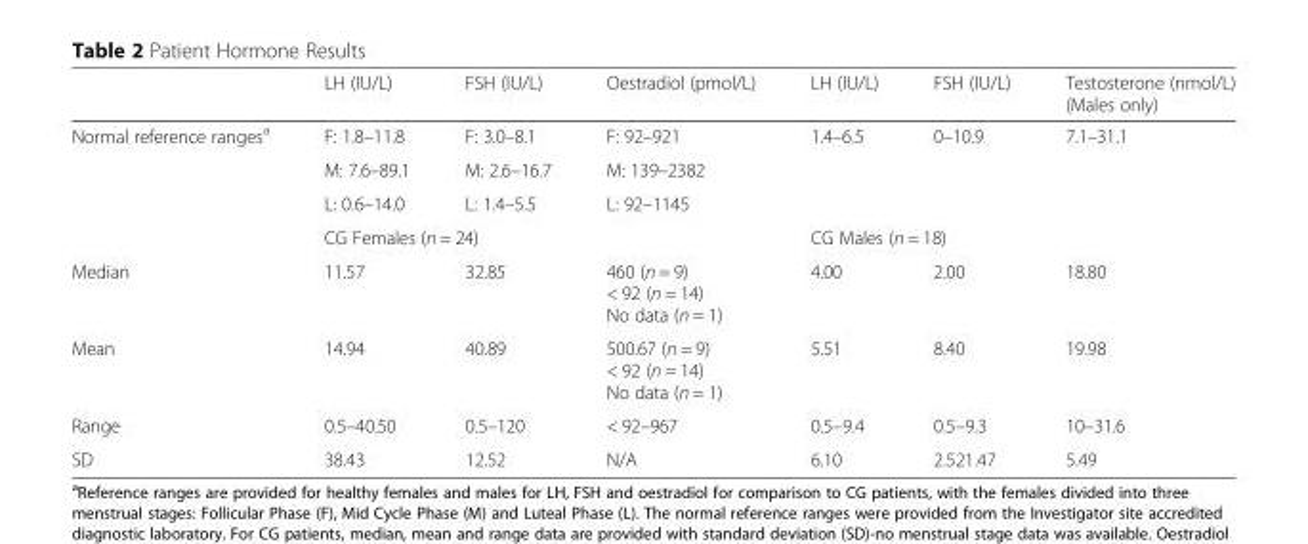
<table><thead><tr><td></td><td>LH (IU/L)</td><td>FSH (IU/L)</td><td>Oestradiol (pmol/L)</td><td>LH (IU/L)</td><td>FSH (IU/L)</td><td>Testosterone (nmol/L) (Males only)</td></tr></thead><tbody><tr><td rowspan="4">Normal reference ranges<sup>a</sup></td><td>F: 1.8–11.8</td><td>F: 3.0–8.1</td><td>F: 92–921</td><td rowspan="3">1.4–6.5</td><td rowspan="3">0–10.9</td><td rowspan="3">7.1–31.1</td></tr><tr><td>M: 7.6–89.1</td><td>M: 2.6–16.7</td><td>M: 139–2382</td></tr><tr><td>L: 0.6–14.0</td><td>L: 1.4–5.5</td><td>L: 92–1145</td></tr><tr><td colspan="3">CG Females (n = 24)</td><td colspan="3">CG Males (n = 18)</td></tr><tr><td>Median</td><td>11.57</td><td>32.85</td><td>460 (n = 9) &lt; 92 (n = 14) No data (n = 1)</td><td>4.00</td><td>2.00</td><td>18.80</td></tr><tr><td>Mean</td><td>14.94</td><td>40.89</td><td>500.67 (n = 9) &lt; 92 (n = 14) No data (n = 1)</td><td>5.51</td><td>8.40</td><td>19.98</td></tr><tr><td>Range</td><td>0.5–40.50</td><td>0.5–120</td><td>&lt; 92–967</td><td>0.5–9.4</td><td>0.5–9.3</td><td>10–31.6</td></tr><tr><td>SD</td><td>38.43</td><td>12.52</td><td>N/A</td><td>6.10</td><td>2.521.47</td><td>5.49</td></tr></tbody></table>